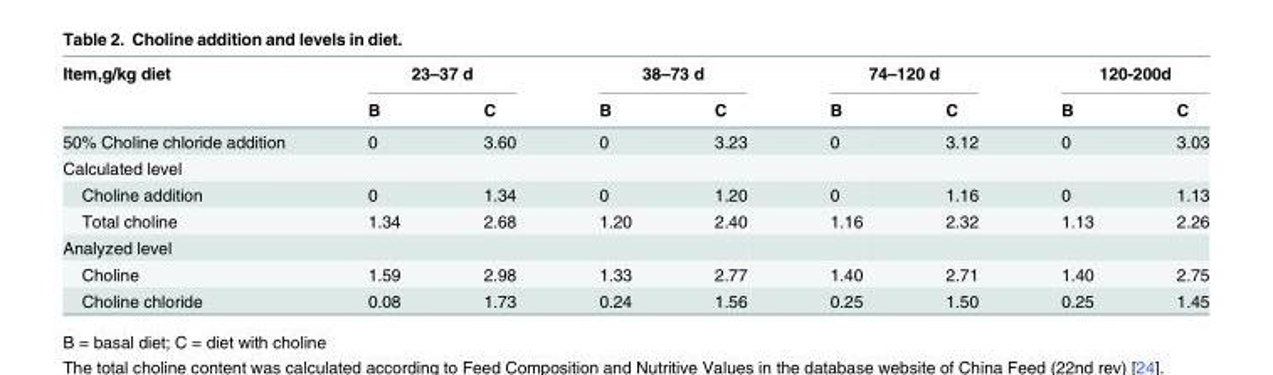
<table><thead><tr><td rowspan="2">Item,g/kg diet</td><td colspan="2">23–37 d</td><td colspan="2">38–73 d</td><td colspan="2">74–120 d</td><td colspan="2">120-200d</td></tr><tr><td>B</td><td>C</td><td>B</td><td>C</td><td>B</td><td>C</td><td>B</td><td>C</td></tr></thead><tbody><tr><td>50% Choline chloride addition</td><td>0</td><td>3.60</td><td>0</td><td>3.23</td><td>0</td><td>3.12</td><td>0</td><td>3.03</td></tr><tr><td colspan="9">Calculated level</td></tr><tr><td>Choline addition</td><td>0</td><td>1.34</td><td>0</td><td>1.20</td><td>0</td><td>1.16</td><td>0</td><td>1.13</td></tr><tr><td>Total choline</td><td>1.34</td><td>2.68</td><td>1.20</td><td>2.40</td><td>1.16</td><td>2.32</td><td>1.13</td><td>2.26</td></tr><tr><td colspan="9">Analyzed level</td></tr><tr><td>Choline</td><td>1.59</td><td>2.98</td><td>1.33</td><td>2.77</td><td>1.40</td><td>2.71</td><td>1.40</td><td>2.75</td></tr><tr><td>Choline chloride</td><td>0.08</td><td>1.73</td><td>0.24</td><td>1.56</td><td>0.25</td><td>1.50</td><td>0.25</td><td>1.45</td></tr></tbody></table>